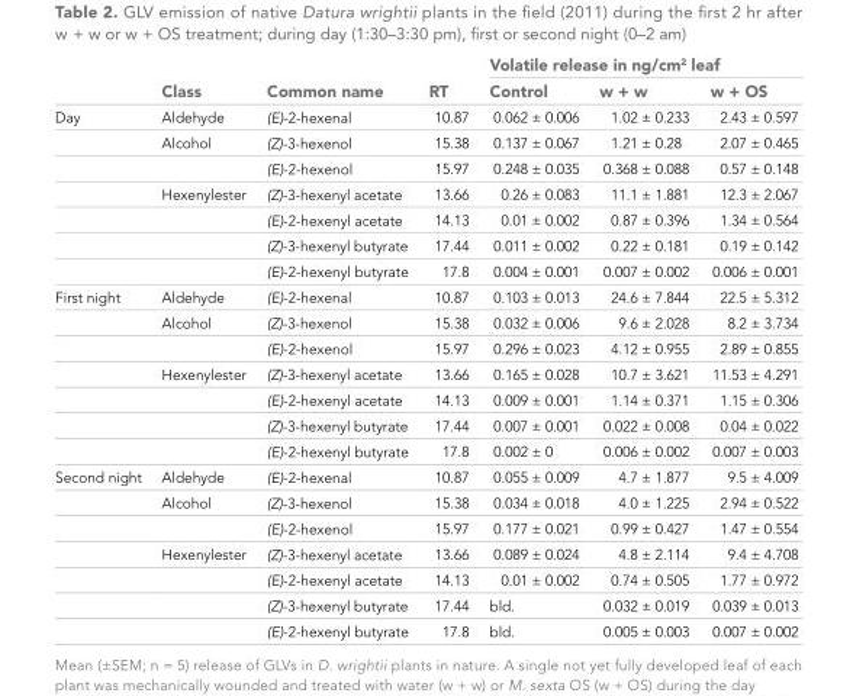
<table><thead><tr><td rowspan="2"></td><td rowspan="2">Class</td><td rowspan="2">Common name</td><td rowspan="2">RT</td><td colspan="3">Volatile release in ng/cm<sup>2</sup> leaf</td></tr><tr><td>Control</td><td>w + w</td><td>w + OS</td></tr></thead><tbody><tr><td rowspan="7">Day</td><td>Aldehyde</td><td>(E)-2-hexenal</td><td>10.87</td><td>0.062 ± 0.006</td><td>1.02 ± 0.233</td><td>2.43 ± 0.597</td></tr><tr><td>Alcohol</td><td>(Z)-3-hexenol</td><td>15.38</td><td>0.137 ± 0.067</td><td>1.21 ± 0.28</td><td>2.07 ± 0.465</td></tr><tr><td></td><td>(E)-2-hexenol</td><td>15.97</td><td>0.248 ± 0.035</td><td>0.368 ± 0.088</td><td>0.57 ± 0.148</td></tr><tr><td>Hexenylester</td><td>(Z)-3-hexenyl acetate</td><td>13.66</td><td>0.26 ± 0.083</td><td>11.1 ± 1.881</td><td>12.3 ± 2.067</td></tr><tr><td></td><td>(E)-2-hexenyl acetate</td><td>14.13</td><td>0.01 ± 0.002</td><td>0.87 ± 0.396</td><td>1.34 ± 0.564</td></tr><tr><td></td><td>(Z)-3-hexenyl butyrate</td><td>17.44</td><td>0.011 ± 0.002</td><td>0.22 ± 0.181</td><td>0.19 ± 0.142</td></tr><tr><td></td><td>(E)-2-hexenyl butyrate</td><td>17.8</td><td>0.004 ± 0.001</td><td>0.007 ± 0.002</td><td>0.006 ± 0.001</td></tr><tr><td rowspan="7">First night</td><td>Aldehyde</td><td>(E)-2-hexenal</td><td>10.87</td><td>0.103 ± 0.013</td><td>24.6 ± 7.844</td><td>22.5 ± 5.312</td></tr><tr><td>Alcohol</td><td>(Z)-3-hexenol</td><td>15.38</td><td>0.032 ± 0.006</td><td>9.6 ± 2.028</td><td>8.2 ± 3.734</td></tr><tr><td></td><td>(E)-2-hexenol</td><td>15.97</td><td>0.296 ± 0.023</td><td>4.12 ± 0.955</td><td>2.89 ± 0.855</td></tr><tr><td>Hexenylester</td><td>(Z)-3-hexenyl acetate</td><td>13.66</td><td>0.165 ± 0.028</td><td>10.7 ± 3.621</td><td>11.53 ± 4.291</td></tr><tr><td></td><td>(E)-2-hexenyl acetate</td><td>14.13</td><td>0.009 ± 0.001</td><td>1.14 ± 0.371</td><td>1.15 ± 0.306</td></tr><tr><td></td><td>(Z)-3-hexenyl butyrate</td><td>17.44</td><td>0.007 ± 0.001</td><td>0.022 ± 0.008</td><td>0.04 ± 0.022</td></tr><tr><td></td><td>(E)-2-hexenyl butyrate</td><td>17.8</td><td>0.002 ± 0</td><td>0.006 ± 0.002</td><td>0.007 ± 0.003</td></tr><tr><td rowspan="7">Second night</td><td>Aldehyde</td><td>(E)-2-hexenal</td><td>10.87</td><td>0.055 ± 0.009</td><td>4.7 ± 1.877</td><td>9.5 ± 4.009</td></tr><tr><td>Alcohol</td><td>(Z)-3-hexenol</td><td>15.38</td><td>0.034 ± 0.018</td><td>4.0 ± 1.225</td><td>2.94 ± 0.522</td></tr><tr><td></td><td>(E)-2-hexenol</td><td>15.97</td><td>0.177 ± 0.021</td><td>0.99 ± 0.427</td><td>1.47 ± 0.554</td></tr><tr><td>Hexenylester</td><td>(Z)-3-hexenyl acetate</td><td>13.66</td><td>0.089 ± 0.024</td><td>4.8 ± 2.114</td><td>9.4 ± 4.708</td></tr><tr><td></td><td>(E)-2-hexenyl acetate</td><td>14.13</td><td>0.01 ± 0.002</td><td>0.74 ± 0.505</td><td>1.77 ± 0.972</td></tr><tr><td></td><td>(Z)-3-hexenyl butyrate</td><td>17.44</td><td>bld.</td><td>0.032 ± 0.019</td><td>0.039 ± 0.013</td></tr><tr><td></td><td>(E)-2-hexenyl butyrate</td><td>17.8</td><td>bld.</td><td>0.005 ± 0.003</td><td>0.007 ± 0.002</td></tr></tbody></table>